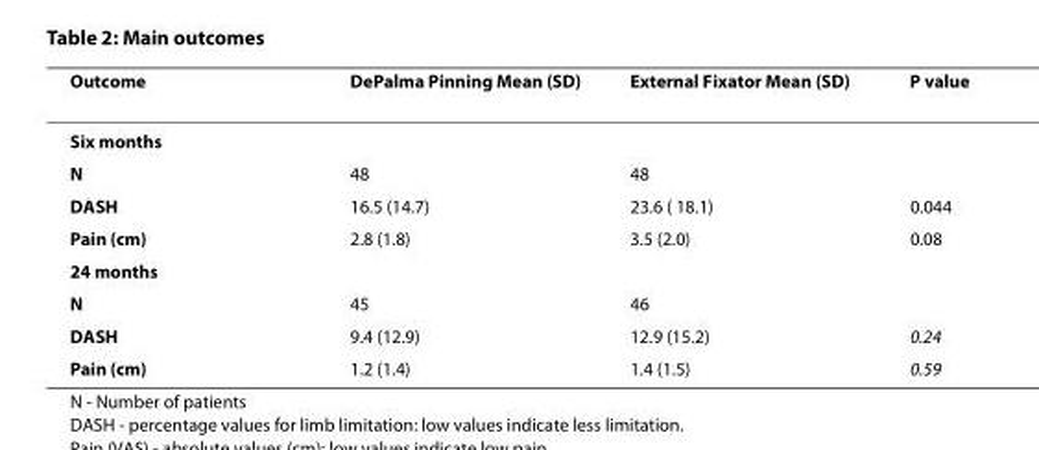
<table><thead><tr><td>Outcome</td><td>DePalma Pinning Mean (SD)</td><td>External Fixator Mean (SD)</td><td>P value</td></tr></thead><tbody><tr><td colspan="4">Six months</td></tr><tr><td>N</td><td>48</td><td>48</td><td></td></tr><tr><td>DASH</td><td>16.5 (14.7)</td><td>23.6 ( 18.1)</td><td>0.044</td></tr><tr><td>Pain (cm)</td><td>2.8 (1.8)</td><td>3.5 (2.0)</td><td>0.08</td></tr><tr><td colspan="4">24 months</td></tr><tr><td>N</td><td>45</td><td>46</td><td></td></tr><tr><td>DASH</td><td>9.4 (12.9)</td><td>12.9 (15.2)</td><td>0.24</td></tr><tr><td>Pain (cm)</td><td>1.2 (1.4)</td><td>1.4 (1.5)</td><td>0.59</td></tr></tbody></table>